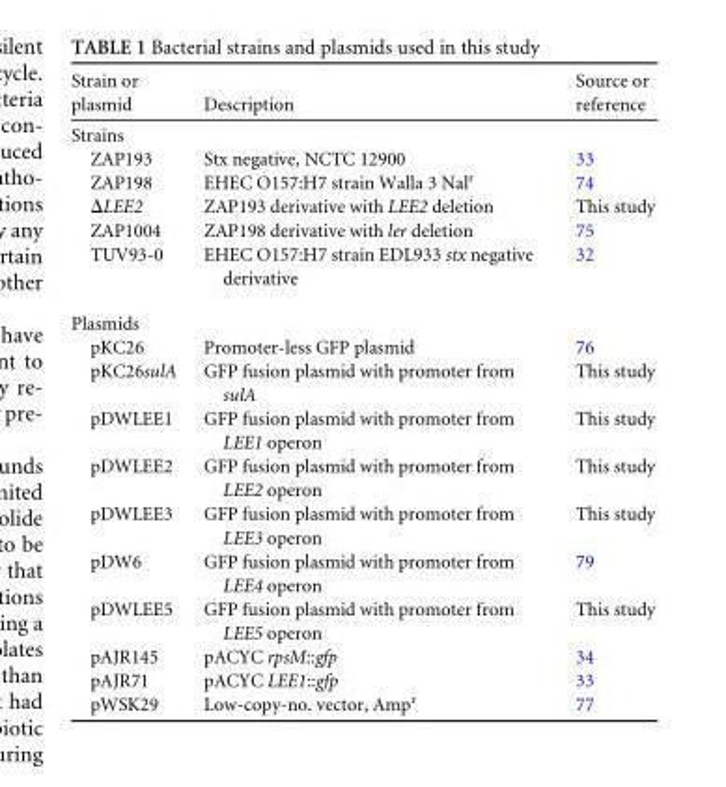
<table><thead><tr><td>Strain or plasmid</td><td>Description</td><td>Source or reference</td></tr></thead><tbody><tr><td colspan="3">Strains</td></tr><tr><td>ZAP193</td><td>Stx negative, NCTC 12900</td><td>33</td></tr><tr><td>ZAP198</td><td>EHEC O157:H7 strain Walla 3 Nal<sup>r</sup></td><td>74</td></tr><tr><td>ΔLEE2</td><td>ZAP193 derivative with LEE2 deletion</td><td>This study</td></tr><tr><td>ZAP1004</td><td>ZAP198 derivative with ler deletion</td><td>75</td></tr><tr><td>TUV93-0</td><td>EHEC O157:H7 strain EDL933 stx negative derivative</td><td>32</td></tr><tr><td colspan="3">Plasmids</td></tr><tr><td>pKC26</td><td>Promoter-less GFP plasmid</td><td>76</td></tr><tr><td>pKC26sulA</td><td>GFP fusion plasmid with promoter from sulA</td><td>This study</td></tr><tr><td>pDWLEE1</td><td>GFP fusion plasmid with promoter from LEE1 operon</td><td>This study</td></tr><tr><td>pDWLEE2</td><td>GFP fusion plasmid with promoter from LEE2 operon</td><td>This study</td></tr><tr><td>pDWLEE3</td><td>GFP fusion plasmid with promoter from LEE3 operon</td><td>This study</td></tr><tr><td>pDW6</td><td>GFP fusion plasmid with promoter from LEE4 operon</td><td>79</td></tr><tr><td>pDWLEE5</td><td>GFP fusion plasmid with promoter from LEE5 operon</td><td>This study</td></tr><tr><td>pAJR145</td><td>pACYC rpsM::gfp</td><td>34</td></tr><tr><td>pAJR71</td><td>pACYC LEE1::gfp</td><td>33</td></tr><tr><td>pWSK29</td><td>Low-copy-no. vector, Amp<sup>r</sup></td><td>77</td></tr></tbody></table>